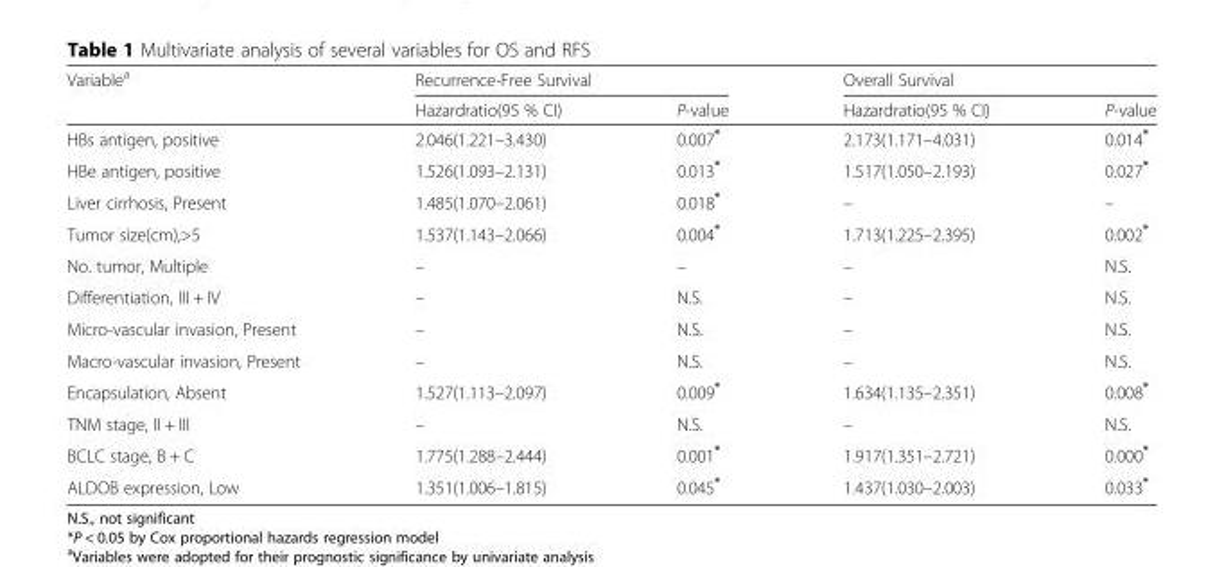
<table><thead><tr><td rowspan="2">Variable<sup>a</sup></td><td colspan="2">Recurrence-Free Survival</td><td colspan="2">Overall Survival</td></tr><tr><td>Hazardratio(95 % CI)</td><td>P-value</td><td>Hazardratio(95 % CI)</td><td>P-value</td></tr></thead><tbody><tr><td>HBs antigen, positive</td><td>2.046(1.221–3.430)</td><td>0.007*</td><td>2.173(1.171–4.031)</td><td>0.014*</td></tr><tr><td>HBe antigen, positive</td><td>1.526(1.093–2.131)</td><td>0.013*</td><td>1.517(1.050–2.193)</td><td>0.027*</td></tr><tr><td>Liver cirrhosis, Present</td><td>1.485(1.070–2.061)</td><td>0.018*</td><td>–</td><td>–</td></tr><tr><td>Tumor size(cm),&gt;5</td><td>1.537(1.143–2.066)</td><td>0.004*</td><td>1.713(1.225–2.395)</td><td>0.002*</td></tr><tr><td>No. tumor, Multiple</td><td>–</td><td>–</td><td>–</td><td>N.S.</td></tr><tr><td>Differentiation, III + IV</td><td>–</td><td>N.S.</td><td>–</td><td>N.S.</td></tr><tr><td>Micro-vascular invasion, Present</td><td>–</td><td>N.S.</td><td>–</td><td>N.S.</td></tr><tr><td>Macro-vascular invasion, Present</td><td>–</td><td>N.S.</td><td>–</td><td>N.S.</td></tr><tr><td>Encapsulation, Absent</td><td>1.527(1.113–2.097)</td><td>0.009*</td><td>1.634(1.135–2.351)</td><td>0.008*</td></tr><tr><td>TNM stage, II + III</td><td>–</td><td>N.S.</td><td>–</td><td>N.S.</td></tr><tr><td>BCLC stage, B + C</td><td>1.775(1.288–2.444)</td><td>0.001*</td><td>1.917(1.351–2.721)</td><td>0.000*</td></tr><tr><td>ALDOB expression, Low</td><td>1.351(1.006–1.815)</td><td>0.045*</td><td>1.437(1.030–2.003)</td><td>0.033*</td></tr></tbody></table>